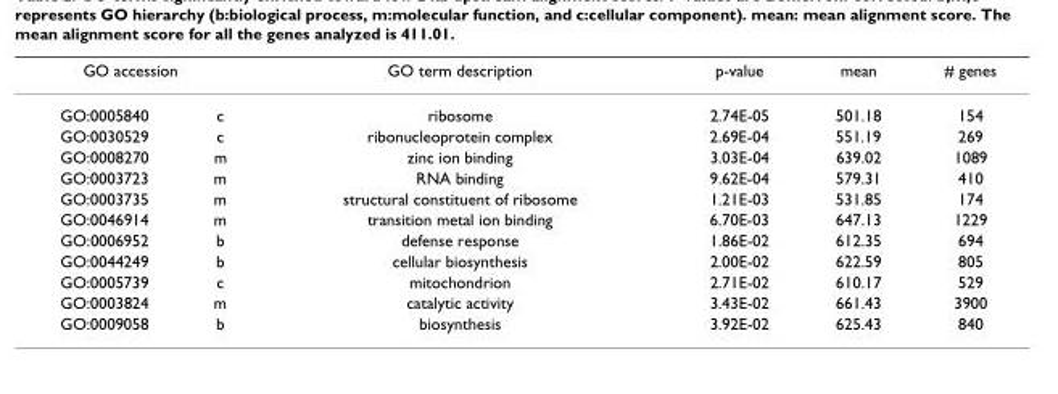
<table><thead><tr><td colspan="2">GO accession</td><td rowspan="2">GO term description ribosome</td><td rowspan="2">p-value 2.74E-05</td><td rowspan="2">mean 501.18</td><td rowspan="2"># genes 154</td></tr><tr><td>GO:0005840</td><td>c</td></tr></thead><tbody><tr><td>GO:0030529</td><td>c</td><td>ribonucleoprotein complex</td><td>2.69E-04</td><td>551.19</td><td>269</td></tr><tr><td>GO:0008270</td><td>m</td><td>zinc ion binding</td><td>3.03E-04</td><td>639.02</td><td>1089</td></tr><tr><td>GO:0003723</td><td>m</td><td>RNA binding</td><td>9.62E-04</td><td>579.31</td><td>410</td></tr><tr><td>GO:0003735</td><td>m</td><td>structural constituent of ribosome</td><td>1.21E-03</td><td>531.85</td><td>174</td></tr><tr><td>GO:0046914</td><td>m</td><td>transition metal ion binding</td><td>6.70E-03</td><td>647.13</td><td>1229</td></tr><tr><td>GO:0006952</td><td>b</td><td>defense response</td><td>1.86E-02</td><td>612.35</td><td>694</td></tr><tr><td>GO:0044249</td><td>b</td><td>cellular biosynthesis</td><td>2.00E-02</td><td>622.59</td><td>805</td></tr><tr><td>GO:0005739</td><td>c</td><td>mitochondrion</td><td>2.71E-02</td><td>610.17</td><td>529</td></tr><tr><td>GO:0003824</td><td>m</td><td>catalytic activity</td><td>3.43E-02</td><td>661.43</td><td>3900</td></tr><tr><td>GO:0009058</td><td>b</td><td>biosynthesis</td><td>3.92E-02</td><td>625.43</td><td>840</td></tr></tbody></table>